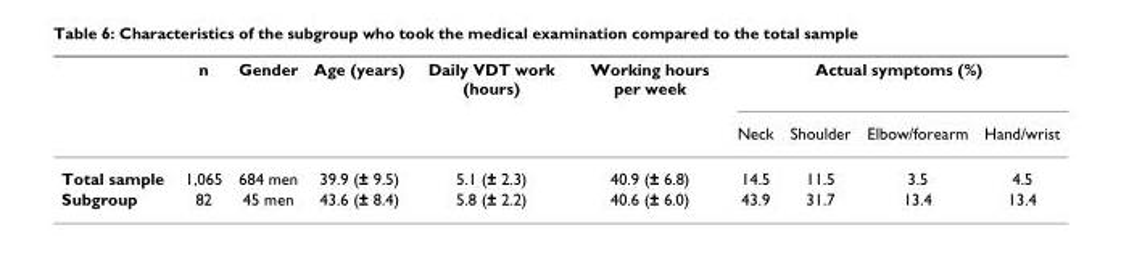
<table><thead><tr><td rowspan="2"></td><td rowspan="2">n</td><td rowspan="2">Gender</td><td rowspan="2">Age (years)</td><td rowspan="2">Daily VDT work (hours)</td><td rowspan="2">Working hours per week</td><td colspan="4">Actual symptoms (%)</td></tr><tr><td>Neck</td><td>Shoulder</td><td>Elbow/forearm</td><td>Hand/wrist</td></tr></thead><tbody><tr><td>Total sample</td><td>1,065</td><td>684 men</td><td>39.9 (± 9.5)</td><td>5.1 (± 2.3)</td><td>40.9 (± 6.8)</td><td>14.5</td><td>11.5</td><td>3.5</td><td>4.5</td></tr><tr><td>Subgroup</td><td>82</td><td>45 men</td><td>43.6 (± 8.4)</td><td>5.8 (± 2.2)</td><td>40.6 (± 6.0)</td><td>43.9</td><td>31.7</td><td>13.4</td><td>13.4</td></tr></tbody></table>